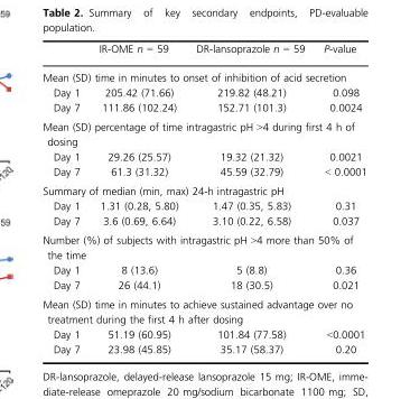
<table><thead><tr><td></td><td>IR-OME n = 59</td><td>DR-lansoprazole n = 59</td><td>P-value</td></tr></thead><tbody><tr><td colspan="4">Mean (SD) time in minutes to onset of inhibition of acid secretion</td></tr><tr><td>Day 1</td><td>205.42 (71.66)</td><td>219.82 (48.21)</td><td>0.098</td></tr><tr><td>Day 7</td><td>111.86 (102.24)</td><td>152.71 (101.3)</td><td>0.0024</td></tr><tr><td colspan="4">Mean (SD) percentage of time intragastric pH &gt;4 during first 4 h of dosing</td></tr><tr><td>Day 1</td><td>29.26 (25.57)</td><td>19.32 (21.32)</td><td>0.0021</td></tr><tr><td>Day 7</td><td>61.3 (31.32)</td><td>45.59 (32.79)</td><td>&lt; 0.0001</td></tr><tr><td colspan="4">Summary of median (min, max) 24-h intragastric pH</td></tr><tr><td>Day 1</td><td>1.31 (0.28, 5.80)</td><td>1.47 (0.35, 5.83)</td><td>0.31</td></tr><tr><td>Day 7</td><td>3.6 (0.69, 6.64)</td><td>3.10 (0.22, 6.58)</td><td>0.037</td></tr><tr><td colspan="4">Number (%) of subjects with intragastric pH &gt;4 more than 50% of the time</td></tr><tr><td>Day 1</td><td>8 (13.6)</td><td>5 (8.8)</td><td>0.36</td></tr><tr><td>Day 7</td><td>26 (44.1)</td><td>18 (30.5)</td><td>0.021</td></tr><tr><td colspan="4">Mean (SD) time in minutes to achieve sustained advantage over no treatment during the first 4 h after dosing</td></tr><tr><td>Day 1</td><td>51.19 (60.95)</td><td>101.84 (77.58)</td><td>&lt;0.0001</td></tr><tr><td>Day 7</td><td>23.98 (45.85)</td><td>35.17 (58.37)</td><td>0.20</td></tr></tbody></table>